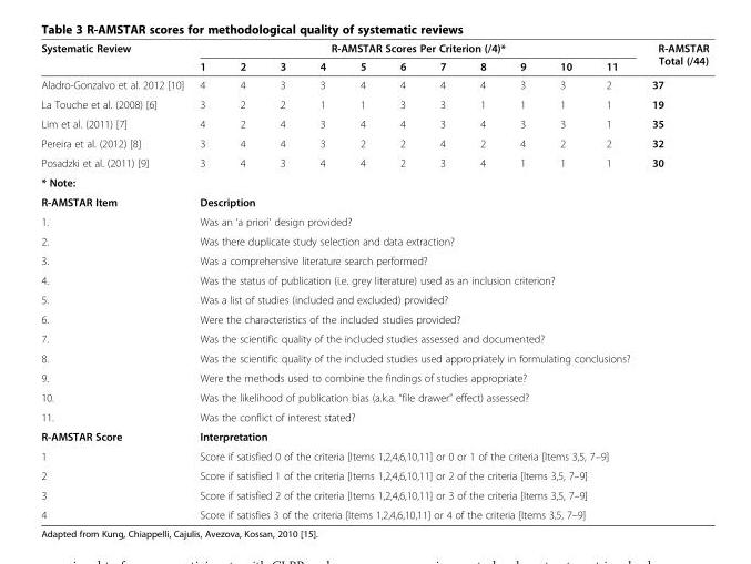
<table><thead><tr><td rowspan="2">Systematic Review</td><td colspan="11">R-AMSTAR Scores Per Criterion (/4)*</td><td rowspan="2">R-AMSTAR Total (/44)</td></tr><tr><td>1</td><td>2</td><td>3</td><td>4</td><td>5</td><td>6</td><td>7</td><td>8</td><td>9</td><td>10</td><td>11</td></tr></thead><tbody><tr><td>Aladro-Gonzalvo et al. 2012 [10]</td><td>4</td><td>4</td><td>3</td><td>3</td><td>4</td><td>4</td><td>4</td><td>4</td><td>3</td><td>3</td><td>2</td><td>37</td></tr><tr><td>La Touche et al. (2008) [6]</td><td>3</td><td>2</td><td>2</td><td>1</td><td>1</td><td>3</td><td>3</td><td>1</td><td>1</td><td>1</td><td>1</td><td>19</td></tr><tr><td>Lim et al. (2011) [7]</td><td>4</td><td>2</td><td>4</td><td>3</td><td>4</td><td>4</td><td>3</td><td>4</td><td>3</td><td>3</td><td>1</td><td>35</td></tr><tr><td>Pereira et al. (2012) [8]</td><td>3</td><td>4</td><td>4</td><td>3</td><td>2</td><td>2</td><td>4</td><td>2</td><td>4</td><td>2</td><td>2</td><td>32</td></tr><tr><td>Posadzki et al. (2011) [9]</td><td>3</td><td>4</td><td>3</td><td>4</td><td>4</td><td>2</td><td>3</td><td>4</td><td>1</td><td>1</td><td>1</td><td>30</td></tr><tr><td colspan="13">* Note:</td></tr><tr><td>R-AMSTAR Item</td><td colspan="12">Description</td></tr><tr><td>1.</td><td colspan="12">Was an ‘a priori’ design provided?</td></tr><tr><td>2.</td><td colspan="12">Was there duplicate study selection and data extraction?</td></tr><tr><td>3.</td><td colspan="12">Was a comprehensive literature search performed?</td></tr><tr><td>4.</td><td colspan="12">Was the status of publication (i.e. grey literature) used as an inclusion criterion?</td></tr><tr><td>5.</td><td colspan="12">Was a list of studies (included and excluded) provided?</td></tr><tr><td>6.</td><td colspan="12">Were the characteristics of the included studies provided?</td></tr><tr><td>7.</td><td colspan="12">Was the scientific quality of the included studies assessed and documented?</td></tr><tr><td>8.</td><td colspan="12">Was the scientific quality of the included studies used appropriately in formulating conclusions?</td></tr><tr><td>9.</td><td colspan="12">Were the methods used to combine the findings of studies appropriate?</td></tr><tr><td>10.</td><td colspan="12">Was the likelihood of publication bias (a.k.a. “file drawer” effect) assessed?</td></tr><tr><td>11.</td><td colspan="12">Was the conflict of interest stated?</td></tr><tr><td>R-AMSTAR Score</td><td colspan="12">Interpretation</td></tr><tr><td>1</td><td colspan="12">Score if satisfied 0 of the criteria [Items 1,2,4,6,10,11] or 0 or 1 of the criteria [Items 3,5, 7–9]</td></tr><tr><td>2</td><td colspan="12">Score if satisfied 1 of the criteria [Items 1,2,4,6,10,11] or 2 of the criteria [Items 3,5, 7–9]</td></tr><tr><td>3</td><td colspan="12">Score if satisfied 2 of the criteria [Items 1,2,4,6,10,11] or 3 of the criteria [Items 3,5, 7–9]</td></tr><tr><td>4</td><td colspan="12">Score if satisfies 3 of the criteria [Items 1,2,4,6,10,11] or 4 of the criteria [Items 3,5, 7–9]</td></tr></tbody></table>